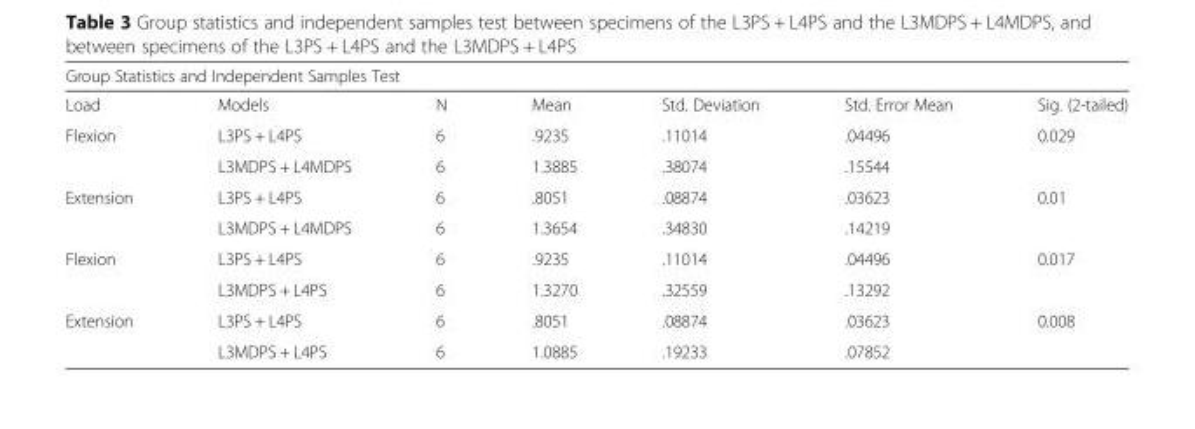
<table><thead><tr><td colspan="7">Group Statistics and Independent Samples Test</td></tr><tr><td>Load</td><td>Models</td><td>N</td><td>Mean</td><td>Std. Deviation</td><td>Std. Error Mean</td><td>Sig. (2-tailed)</td></tr></thead><tbody><tr><td rowspan="2">Flexion</td><td>L3PS + L4PS</td><td>6</td><td>.9235</td><td>.11014</td><td>.04496</td><td rowspan="2">0.029</td></tr><tr><td>L3MDPS + L4MDPS</td><td>6</td><td>1.3885</td><td>.38074</td><td>.15544</td></tr><tr><td rowspan="2">Extension</td><td>L3PS + L4PS</td><td>6</td><td>.8051</td><td>.08874</td><td>.03623</td><td rowspan="2">0.01</td></tr><tr><td>L3MDPS + L4MDPS</td><td>6</td><td>1.3654</td><td>.34830</td><td>.14219</td></tr><tr><td rowspan="2">Flexion</td><td>L3PS + L4PS</td><td>6</td><td>.9235</td><td>.11014</td><td>.04496</td><td rowspan="2">0.017</td></tr><tr><td>L3MDPS + L4PS</td><td>6</td><td>1.3270</td><td>.32559</td><td>.13292</td></tr><tr><td rowspan="2">Extension</td><td>L3PS + L4PS</td><td>6</td><td>.8051</td><td>.08874</td><td>.03623</td><td rowspan="2">0.008</td></tr><tr><td>L3MDPS + L4PS</td><td>6</td><td>1.0885</td><td>.19233</td><td>.07852</td></tr></tbody></table>